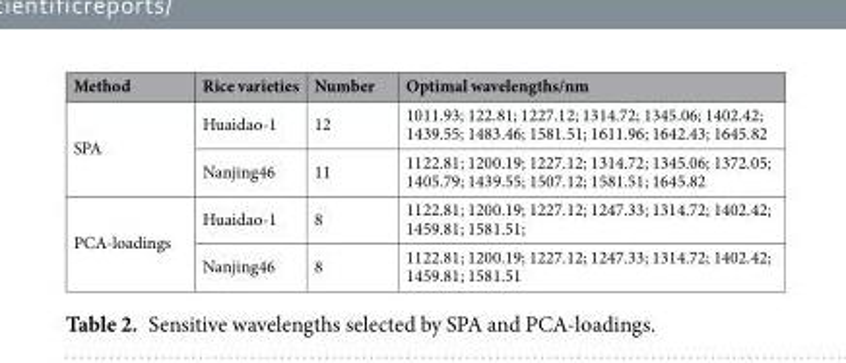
<table><thead><tr><td>Method</td><td>Rice varieties</td><td>Number</td><td>Optimal wavelengths/nm</td></tr></thead><tbody><tr><td rowspan="2">SPA</td><td>Huaidao-1</td><td>12</td><td>1011.93; 122.81; 1227.12; 1314.72; 1345.06; 1402.42; 1439.55; 1483.46; 1581.51; 1611.96; 1642.43; 1645.82</td></tr><tr><td>Nanjing46</td><td>11</td><td>1122.81; 1200.19; 1227.12; 1314.72; 1345.06; 1372.05; 1405.79; 1439.55; 1507.12; 1581.51; 1645.82</td></tr><tr><td rowspan="2">PCA-loadings</td><td>Huaidao-1</td><td>8</td><td>1122.81; 1200.19; 1227.12; 1247.33; 1314.72; 1402.42; 1459.81; 1581.51;</td></tr><tr><td>Nanjing46</td><td>8</td><td>1122.81; 1200.19; 1227.12; 1247.33; 1314.72; 1402.42; 1459.81; 1581.51</td></tr></tbody></table>